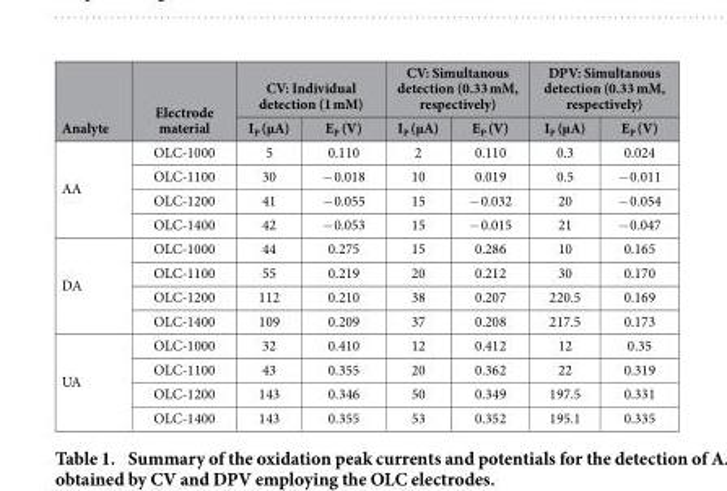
<table><thead><tr><td rowspan="2">Analyte</td><td rowspan="2">Electrode material</td><td colspan="2">CV: Individual detection (1 mM)</td><td colspan="2">CV: Simultanous detection (0.33 mM, respectively)</td><td colspan="2">DPV: Simultanous detection (0.33 mM, respectively)</td></tr><tr><td>I<sub>P</sub> (μA)</td><td>E<sub>P</sub> (V)</td><td>I<sub>P</sub> (μA)</td><td>E<sub>P</sub> (V)</td><td>I<sub>P</sub> (μA)</td><td>E<sub>P</sub> (V)</td></tr></thead><tbody><tr><td rowspan="4">AA</td><td>OLC-1000</td><td>5</td><td>0.110</td><td>2</td><td>0.110</td><td>0.3</td><td>0.024</td></tr><tr><td>OLC-1100</td><td>30</td><td>− 0.018</td><td>10</td><td>0.019</td><td>0.5</td><td>− 0.011</td></tr><tr><td>OLC-1200</td><td>41</td><td>− 0.055</td><td>15</td><td>− 0.032</td><td>20</td><td>− 0.054</td></tr><tr><td>OLC-1400</td><td>42</td><td>− 0.053</td><td>15</td><td>− 0.015</td><td>21</td><td>− 0.047</td></tr><tr><td rowspan="4">DA</td><td>OLC-1000</td><td>44</td><td>0.275</td><td>15</td><td>0.286</td><td>10</td><td>0.165</td></tr><tr><td>OLC-1100</td><td>55</td><td>0.219</td><td>20</td><td>0.212</td><td>30</td><td>0.170</td></tr><tr><td>OLC-1200</td><td>112</td><td>0.210</td><td>38</td><td>0.207</td><td>220.5</td><td>0.169</td></tr><tr><td>OLC-1400</td><td>109</td><td>0.209</td><td>37</td><td>0.208</td><td>217.5</td><td>0.173</td></tr><tr><td rowspan="4">UA</td><td>OLC-1000</td><td>32</td><td>0.410</td><td>12</td><td>0.412</td><td>12</td><td>0.35</td></tr><tr><td>OLC-1100</td><td>43</td><td>0.355</td><td>20</td><td>0.362</td><td>22</td><td>0.319</td></tr><tr><td>OLC-1200</td><td>143</td><td>0.346</td><td>50</td><td>0.349</td><td>197.5</td><td>0.331</td></tr><tr><td>OLC-1400</td><td>143</td><td>0.355</td><td>53</td><td>0.352</td><td>195.1</td><td>0.335</td></tr></tbody></table>